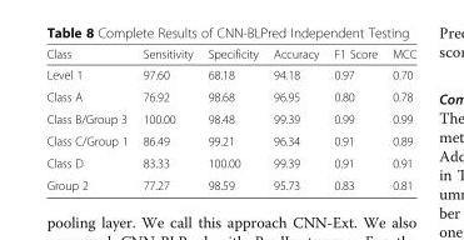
<table><thead><tr><td>Class</td><td>Sensitivity</td><td>Specificity</td><td>Accuracy</td><td>F1 Score</td><td>MCC</td></tr></thead><tbody><tr><td>Level 1</td><td>97.60</td><td>68.18</td><td>94.18</td><td>0.97</td><td>0.70</td></tr><tr><td>Class A</td><td>76.92</td><td>98.68</td><td>96.95</td><td>0.80</td><td>0.78</td></tr><tr><td>Class B/Group 3</td><td>100.00</td><td>98.48</td><td>99.39</td><td>0.99</td><td>0.99</td></tr><tr><td>Class C/Group 1</td><td>86.49</td><td>99.21</td><td>96.34</td><td>0.91</td><td>0.89</td></tr><tr><td>Class D</td><td>83.33</td><td>100.00</td><td>99.39</td><td>0.91</td><td>0.91</td></tr><tr><td>Group 2</td><td>77.27</td><td>98.59</td><td>95.73</td><td>0.83</td><td>0.81</td></tr></tbody></table>